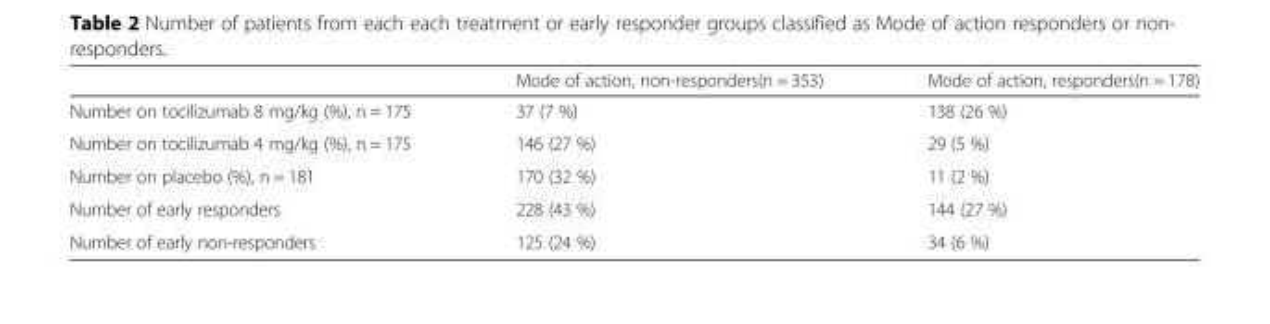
<table><thead><tr><td></td><td>Mode of action, non-responders(n = 353)</td><td>Mode of action, responders(n = 178)</td></tr></thead><tbody><tr><td>Number on tocilizumab 8 mg/kg (%), n = 175</td><td>37 (7 %)</td><td>138 (26 %)</td></tr><tr><td>Number on tocilizumab 4 mg/kg (%), n = 175</td><td>146 (27 %)</td><td>29 (5 %)</td></tr><tr><td>Number on placebo (%), n = 181</td><td>170 (32 %)</td><td>11 (2 %)</td></tr><tr><td>Number of early responders</td><td>228 (43 %)</td><td>144 (27 %)</td></tr><tr><td>Number of early non-responders</td><td>125 (24 %)</td><td>34 (6 %)</td></tr></tbody></table>